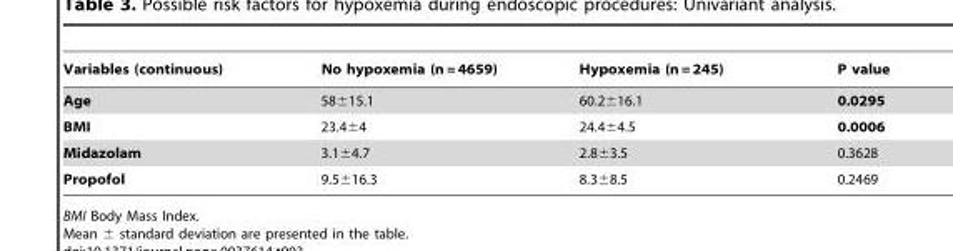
<table><thead><tr><td>Variables (continuous)</td><td>No hypoxemia (n = 4659)</td><td>Hypoxemia (n = 245)</td><td>P value</td></tr></thead><tbody><tr><td>Age</td><td>58±15.1</td><td>60.2±16.1</td><td>0.0295</td></tr><tr><td>BMI</td><td>23.4±4</td><td>24.4±4.5</td><td>0.0006</td></tr><tr><td>Midazolam</td><td>3.1±4.7</td><td>2.8±3.5</td><td>0.3628</td></tr><tr><td>Propofol</td><td>9.5±16.3</td><td>8.3±8.5</td><td>0.2469</td></tr></tbody></table>